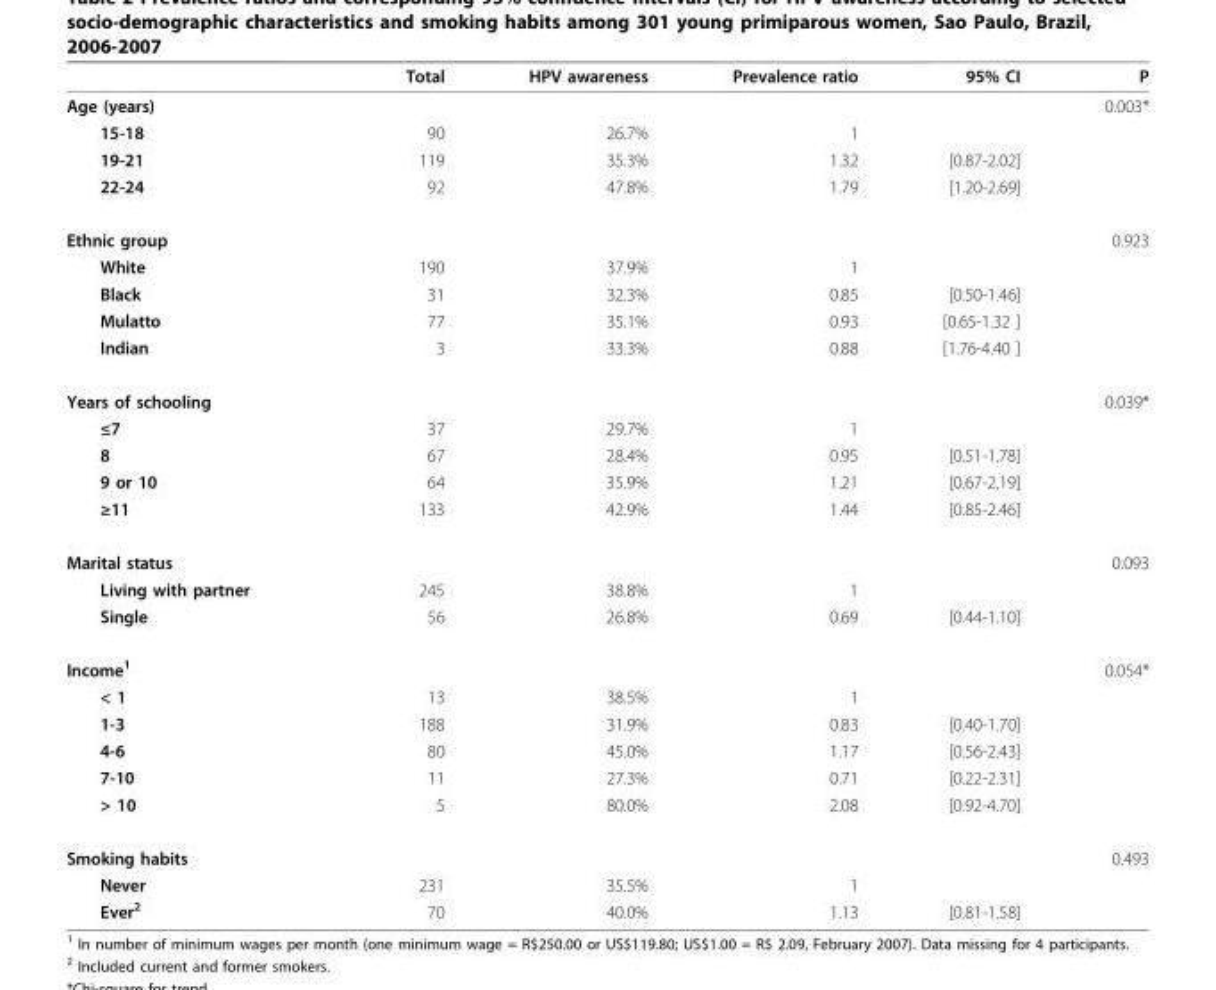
<table><thead><tr><td></td><td>Total</td><td>HPV awareness</td><td>Prevalence ratio</td><td>95% CI</td><td>P</td></tr></thead><tbody><tr><td>Age (years)</td><td></td><td></td><td></td><td></td><td>0.003*</td></tr><tr><td>15-18</td><td>90</td><td>26.7%</td><td>1</td><td></td><td></td></tr><tr><td>19-21</td><td>119</td><td>35.3%</td><td>1.32</td><td>[0.87-2.02]</td><td></td></tr><tr><td>22-24</td><td>92</td><td>47.8%</td><td>1.79</td><td>[1.20-2.69]</td><td></td></tr><tr><td>Ethnic group</td><td></td><td></td><td></td><td></td><td>0.923</td></tr><tr><td>White</td><td>190</td><td>37.9%</td><td>1</td><td></td><td></td></tr><tr><td>Black</td><td>31</td><td>32.3%</td><td>0.85</td><td>[0.50-1.46]</td><td></td></tr><tr><td>Mulatto</td><td>77</td><td>35.1%</td><td>0.93</td><td>[0.65-1.32 ]</td><td></td></tr><tr><td>Indian</td><td>3</td><td>33.3%</td><td>0.88</td><td>[1.76-4.40 ]</td><td></td></tr><tr><td>Years of schooling</td><td></td><td></td><td></td><td></td><td>0.039*</td></tr><tr><td>≤7</td><td>37</td><td>29.7%</td><td>1</td><td></td><td></td></tr><tr><td>8</td><td>67</td><td>28.4%</td><td>0.95</td><td>[0.51-1.78]</td><td></td></tr><tr><td>9 or 10</td><td>64</td><td>35.9%</td><td>1.21</td><td>[0.67-2.19]</td><td></td></tr><tr><td>≥11</td><td>133</td><td>42.9%</td><td>1.44</td><td>[0.85-2.46]</td><td></td></tr><tr><td>Marital status</td><td></td><td></td><td></td><td></td><td>0.093</td></tr><tr><td>Living with partner</td><td>245</td><td>38.8%</td><td>1</td><td></td><td></td></tr><tr><td>Single</td><td>56</td><td>26.8%</td><td>0.69</td><td>[0.44-1.10]</td><td></td></tr><tr><td>Income<sup>1</sup></td><td></td><td></td><td></td><td></td><td>0.054*</td></tr><tr><td>&lt; 1</td><td>13</td><td>38.5%</td><td>1</td><td></td><td></td></tr><tr><td>1-3</td><td>188</td><td>31.9%</td><td>0.83</td><td>[0.40-1.70]</td><td></td></tr><tr><td>4-6</td><td>80</td><td>45.0%</td><td>1.17</td><td>[0.56-2.43]</td><td></td></tr><tr><td>7-10</td><td>11</td><td>27.3%</td><td>0.71</td><td>[0.22-2.31]</td><td></td></tr><tr><td>&gt; 10</td><td>5</td><td>80.0%</td><td>2.08</td><td>[0.92-4.70]</td><td></td></tr><tr><td>Smoking habits</td><td></td><td></td><td></td><td></td><td>0.493</td></tr><tr><td>Never</td><td>231</td><td>35.5%</td><td>1</td><td></td><td></td></tr><tr><td>Ever<sup>2</sup></td><td>70</td><td>40.0%</td><td>1.13</td><td>[0.81-1.58]</td><td></td></tr></tbody></table>